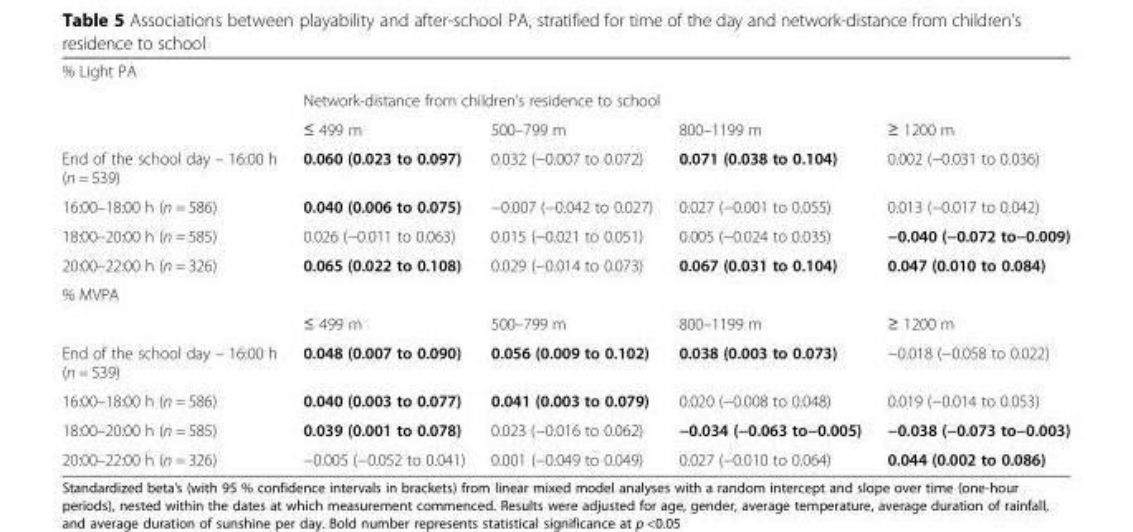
<table><tbody><tr><td colspan="5">% Light PA</td></tr><tr><td></td><td colspan="4">Network-distance from children’s residence to school</td></tr><tr><td></td><td>≤ 499 m</td><td>500–799 m</td><td>800–1199 m</td><td>≥ 1200 m</td></tr><tr><td>End of the school day – 16:00 h (n = 539)</td><td>0.060 (0.023 to 0.097)</td><td>0.032 (−0.007 to 0.072)</td><td>0.071 (0.038 to 0.104)</td><td>0.002 (−0.031 to 0.036)</td></tr><tr><td>16:00–18:00 h (n = 586)</td><td>0.040 (0.006 to 0.075)</td><td>−0.007 (−0.042 to 0.027)</td><td>0.027 (−0.001 to 0.055)</td><td>0.013 (−0.017 to 0.042)</td></tr><tr><td>18:00–20:00 h (n = 585)</td><td>0.026 (−0.011 to 0.063)</td><td>0.015 (−0.021 to 0.051)</td><td>0.005 (−0.024 to 0.035)</td><td>−0.040 (−0.072 to−0.009)</td></tr><tr><td>20:00–22:00 h (n = 326)</td><td>0.065 (0.022 to 0.108)</td><td>0.029 (−0.014 to 0.073)</td><td>0.067 (0.031 to 0.104)</td><td>0.047 (0.010 to 0.084)</td></tr><tr><td colspan="5">% MVPA</td></tr><tr><td></td><td>≤ 499 m</td><td>500–799 m</td><td>800–1199 m</td><td>≥ 1200 m</td></tr><tr><td>End of the school day – 16:00 h (n = 539)</td><td>0.048 (0.007 to 0.090)</td><td>0.056 (0.009 to 0.102)</td><td>0.038 (0.003 to 0.073)</td><td>−0.018 (−0.058 to 0.022)</td></tr><tr><td>16:00–18:00 h (n = 586)</td><td>0.040 (0.003 to 0.077)</td><td>0.041 (0.003 to 0.079)</td><td>0.020 (−0.008 to 0.048)</td><td>0.019 (−0.014 to 0.053)</td></tr><tr><td>18:00–20:00 h (n = 585)</td><td>0.039 (0.001 to 0.078)</td><td>0.023 (−0.016 to 0.062)</td><td>−0.034 (−0.063 to−0.005)</td><td>−0.038 (−0.073 to−0.003)</td></tr><tr><td>20:00–22:00 h (n = 326)</td><td>−0.005 (−0.052 to 0.041)</td><td>0.001 (−0.049 to 0.049)</td><td>0.027 (−0.010 to 0.064)</td><td>0.044 (0.002 to 0.086)</td></tr></tbody></table>